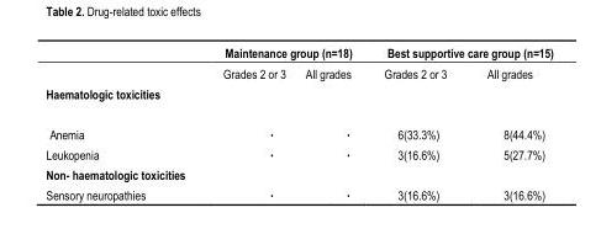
<table><thead><tr><td rowspan="2"></td><td colspan="2">Maintenance group (n=18)</td><td colspan="2">Best supportive care group (n=15)</td></tr><tr><td>Grades 2 or 3</td><td>All grades</td><td>Grades 2 or 3</td><td>All grades</td></tr></thead><tbody><tr><td colspan="5">Haematologic toxicities</td></tr><tr><td>Anemia</td><td>0</td><td>0</td><td>6(33.3%)</td><td>8(44.4%)</td></tr><tr><td>Leukopenia</td><td>0</td><td>0</td><td>3(16.6%)</td><td>5(27.7%)</td></tr><tr><td colspan="5">Non- haematologic toxicities</td></tr><tr><td>Sensory neuropathies</td><td>0</td><td>0</td><td>3(16.6%)</td><td>3(16.6%)</td></tr></tbody></table>